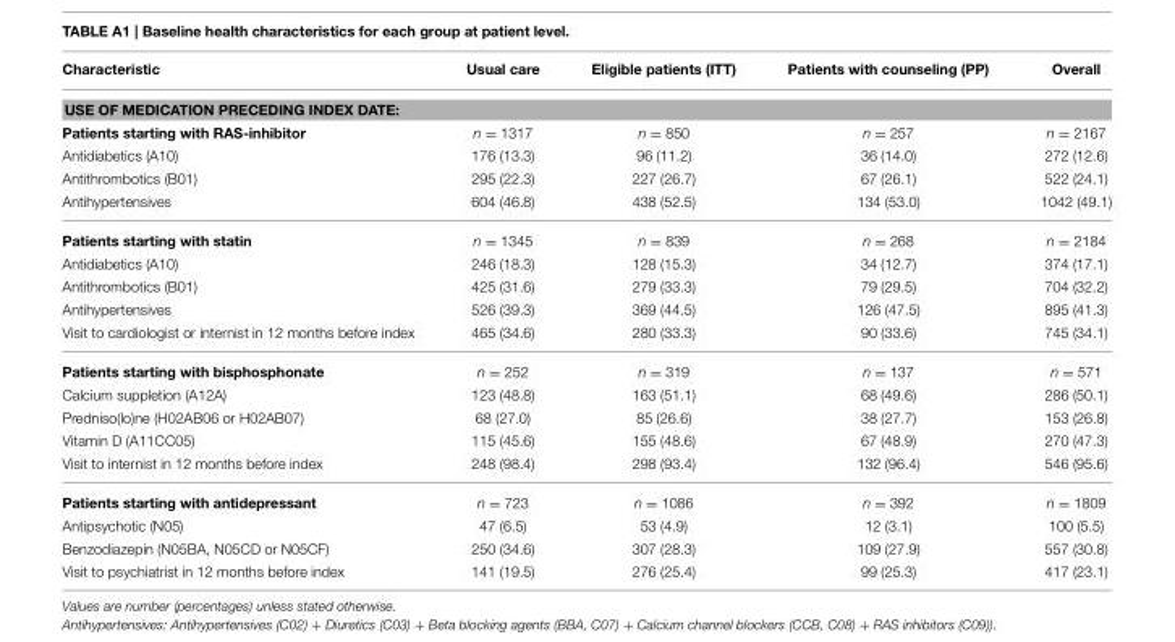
<table><thead><tr><td>Characteristic</td><td>Usual care</td><td>Eligible patients (ITT)</td><td>Patients with counseling (PP)</td><td>Overall</td></tr></thead><tbody><tr><td colspan="5">USE OF MEDICATION PRECEDING INDEX DATE:</td></tr><tr><td>Patients starting with RAS-inhibitor</td><td>n = 1317</td><td>n = 850</td><td>n = 257</td><td>n = 2167</td></tr><tr><td>Antidiabetics (A10)</td><td>176 (13.3)</td><td>96 (11.2)</td><td>36 (14.0)</td><td>272 (12.6)</td></tr><tr><td>Antithrombotics (B01)</td><td>295 (22.3)</td><td>227 (26.7)</td><td>67 (26.1)</td><td>522 (24.1)</td></tr><tr><td>Antihypertensives</td><td>604 (46.8)</td><td>438 (52.5)</td><td>134 (53.0)</td><td>1042 (49.1)</td></tr><tr><td>Patients starting with statin</td><td>n = 1345</td><td>n = 839</td><td>n = 268</td><td>n = 2184</td></tr><tr><td>Antidiabetics (A10)</td><td>246 (18.3)</td><td>128 (15.3)</td><td>34 (12.7)</td><td>374 (17.1)</td></tr><tr><td>Antithrombotics (B01)</td><td>425 (31.6)</td><td>279 (33.3)</td><td>79 (29.5)</td><td>704 (32.2)</td></tr><tr><td>Antihypertensives</td><td>526 (39.3)</td><td>369 (44.5)</td><td>126 (47.5)</td><td>895 (41.3)</td></tr><tr><td>Visit to cardiologist or internist in 12 months before index</td><td>465 (34.6)</td><td>280 (33.3)</td><td>90 (33.6)</td><td>745 (34.1)</td></tr><tr><td>Patients starting with bisphosphonate</td><td>n = 252</td><td>n = 319</td><td>n = 137</td><td>n = 571</td></tr><tr><td>Calcium suppletion (A12A)</td><td>123 (48.8)</td><td>163 (51.1)</td><td>68 (49.6)</td><td>286 (50.1)</td></tr><tr><td>Predniso(lo)ne (H02AB06 or H02AB07)</td><td>68 (27.0)</td><td>85 (26.6)</td><td>38 (27.7)</td><td>153 (26.8)</td></tr><tr><td>Vitamin D (A11CC05)</td><td>115 (45.6)</td><td>155 (48.6)</td><td>67 (48.9)</td><td>270 (47.3)</td></tr><tr><td>Visit to internist in 12 months before index</td><td>248 (98.4)</td><td>298 (93.4)</td><td>132 (96.4)</td><td>546 (95.6)</td></tr><tr><td>Patients starting with antidepressant</td><td>n = 723</td><td>n = 1086</td><td>n = 392</td><td>n = 1809</td></tr><tr><td>Antipsychotic (N05)</td><td>47 (6.5)</td><td>53 (4.9)</td><td>12 (3.1)</td><td>100 (5.5)</td></tr><tr><td>Benzodiazepin (N05BA, N05CD or N05CF)</td><td>250 (34.6)</td><td>307 (28.3)</td><td>109 (27.9)</td><td>557 (30.8)</td></tr><tr><td>Visit to psychiatrist in 12 months before index</td><td>141 (19.5)</td><td>276 (25.4)</td><td>99 (25.3)</td><td>417 (23.1)</td></tr></tbody></table>